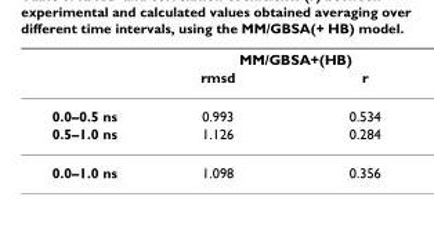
<table><thead><tr><td rowspan="2"></td><td colspan="2">MM/GBSA+(HB)</td></tr><tr><td>rmsd</td><td>r</td></tr></thead><tbody><tr><td>0.0–0.5 ns</td><td>0.993</td><td>0.534</td></tr><tr><td>0.5–1.0 ns</td><td>1.126</td><td>0.284</td></tr><tr><td>0.0–1.0 ns</td><td>1.098</td><td>0.356</td></tr></tbody></table>